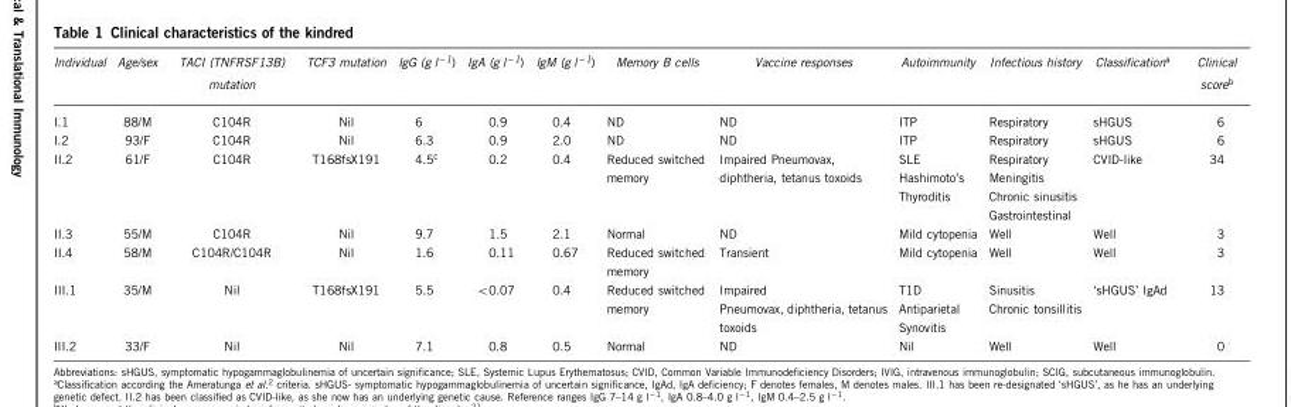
<table><thead><tr><td>Individual</td><td>Age/sex</td><td>TACI (TNFRSF13B) mutation</td><td>TCF3 mutation</td><td>IgG (g l <sup>− 1</sup>)</td><td>IgA (g l <sup>− 1</sup>)</td><td>IgM (g l<sup>− 1</sup>)</td><td>Memory B cells</td><td>Vaccine responses</td><td>Autoimmunity</td><td>Infectious history</td><td>Classification<sup>a</sup></td><td>Clinical score<sup>b</sup></td></tr></thead><tbody><tr><td>I.1</td><td>88/M</td><td>C104R</td><td>Nil</td><td>6</td><td>0.9</td><td>0.4</td><td>ND</td><td>ND</td><td>ITP</td><td>Respiratory</td><td>sHGUS</td><td>6</td></tr><tr><td>I.2</td><td>93/F</td><td>C104R</td><td>Nil</td><td>6.3</td><td>0.9</td><td>2.0</td><td>ND</td><td>ND</td><td>ITP</td><td>Respiratory</td><td>sHGUS</td><td>6</td></tr><tr><td>II.2</td><td>61/F</td><td>C104R</td><td>T168fsX191</td><td>4.5<sup>c</sup></td><td>0.2</td><td>0.4</td><td>Reduced switched memory</td><td>Impaired Pneumovax, diphtheria, tetanus toxoids</td><td>SLE Hashimoto’s Thyroditis</td><td>Respiratory Meningitis Chronic sinusitis Gastrointestinal</td><td>CVID-like</td><td>34</td></tr><tr><td>II.3</td><td>55/M</td><td>C104R</td><td>Nil</td><td>9.7</td><td>1.5</td><td>2.1</td><td>Normal</td><td>ND</td><td>Mild cytopenia</td><td>Well</td><td>Well</td><td>3</td></tr><tr><td>II.4</td><td>58/M</td><td>C104R/C104R</td><td>Nil</td><td>1.6</td><td>0.11</td><td>0.67</td><td>Reduced switched memory</td><td>Transient</td><td>Mild cytopenia</td><td>Well</td><td>Well</td><td>3</td></tr><tr><td>III.1</td><td>35/M</td><td>Nil</td><td>T168fsX191</td><td>5.5</td><td>&lt;0.07</td><td>0.4</td><td>Reduced switched memory</td><td>Impaired Pneumovax, diphtheria, tetanus toxoids</td><td>T1D Antiparietal Synovitis</td><td>Sinusitis Chronic tonsillitis</td><td>‘sHGUS’ IgAd</td><td>13</td></tr><tr><td>III.2</td><td>33/F</td><td>Nil</td><td>Nil</td><td>7.1</td><td>0.8</td><td>0.5</td><td>Normal</td><td>ND</td><td>Nil</td><td>Well</td><td>Well</td><td>0</td></tr></tbody></table>